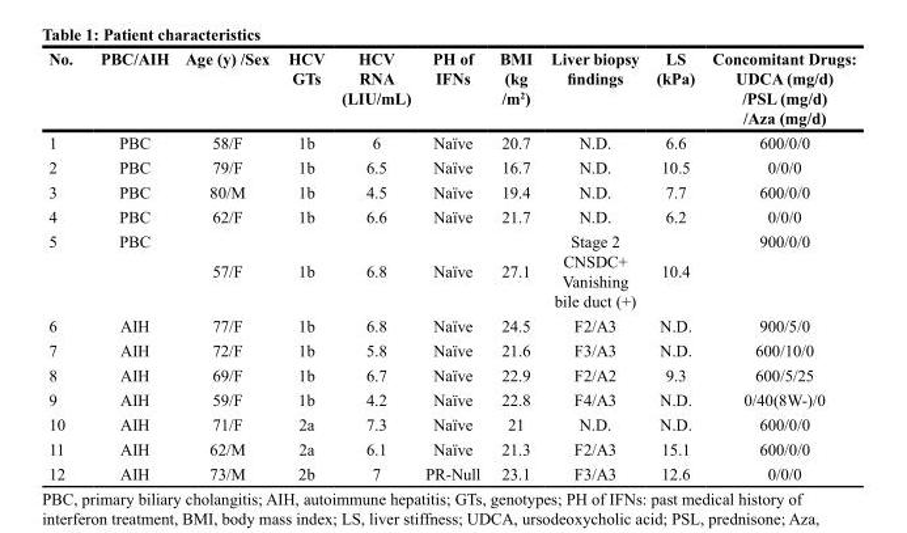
<table><thead><tr><td>No.</td><td>PBC/AIH</td><td>Age (y) /Sex</td><td>HCV GTs</td><td>HCV RNA (LIU/mL)</td><td>PH of IFNs</td><td>BMI (kg /m<sup>2</sup>)</td><td>Liver biopsy findings</td><td>LS (kPa)</td><td>Concomitant Drugs: UDCA (mg/d) /PSL (mg/d) /Aza (mg/d)</td></tr></thead><tbody><tr><td>1</td><td>PBC</td><td>58/F</td><td>1b</td><td>6</td><td>Naïve</td><td>20.7</td><td>N.D.</td><td>6.6</td><td>600/0/0</td></tr><tr><td>2</td><td>PBC</td><td>79/F</td><td>1b</td><td>6.5</td><td>Naïve</td><td>16.7</td><td>N.D.</td><td>10.5</td><td>0/0/0</td></tr><tr><td>3</td><td>PBC</td><td>80/M</td><td>1b</td><td>4.5</td><td>Naïve</td><td>19.4</td><td>N.D.</td><td>7.7</td><td>600/0/0</td></tr><tr><td>4</td><td>PBC</td><td>62/F</td><td>1b</td><td>6.6</td><td>Naïve</td><td>21.7</td><td>N.D.</td><td>6.2</td><td>0/0/0</td></tr><tr><td>5</td><td>PBC</td><td>57/F</td><td>1b</td><td>6.8</td><td>Naïve</td><td>27.1</td><td>Stage 2 CNSDC+ Vanishing bile duct (+)</td><td>10.4</td><td>900/0/0</td></tr><tr><td>6</td><td>AIH</td><td>77/F</td><td>1b</td><td>6.8</td><td>Naïve</td><td>24.5</td><td>F2/A3</td><td>N.D.</td><td>900/5/0</td></tr><tr><td>7</td><td>AIH</td><td>72/F</td><td>1b</td><td>5.8</td><td>Naïve</td><td>21.6</td><td>F3/A3</td><td>N.D.</td><td>600/10/0</td></tr><tr><td>8</td><td>AIH</td><td>69/F</td><td>1b</td><td>6.7</td><td>Naïve</td><td>22.9</td><td>F2/A2</td><td>9.3</td><td>600/5/25</td></tr><tr><td>9</td><td>AIH</td><td>59/F</td><td>1b</td><td>4.2</td><td>Naïve</td><td>22.8</td><td>F4/A3</td><td>N.D.</td><td>0/40(8W-)/0</td></tr><tr><td>10</td><td>AIH</td><td>71/F</td><td>2a</td><td>7.3</td><td>Naïve</td><td>21</td><td>N.D.</td><td>N.D.</td><td>600/0/0</td></tr><tr><td>11</td><td>AIH</td><td>62/M</td><td>2a</td><td>6.1</td><td>Naïve</td><td>21.3</td><td>F2/A3</td><td>15.1</td><td>600/0/0</td></tr><tr><td>12</td><td>AIH</td><td>73/M</td><td>2b</td><td>7</td><td>PR-Null</td><td>23.1</td><td>F3/A3</td><td>12.6</td><td>0/0/0</td></tr></tbody></table>